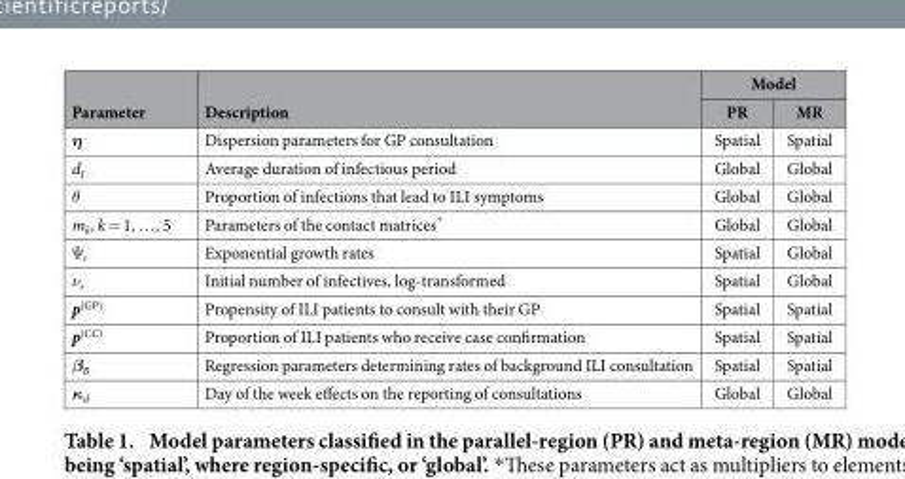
<table><thead><tr><td rowspan="2">Parameter</td><td rowspan="2">Description</td><td colspan="2">Model</td></tr><tr><td>PR</td><td>MR</td></tr></thead><tbody><tr><td>η</td><td>Dispersion parameters for GP consultation</td><td>Spatial</td><td>Spatial</td></tr><tr><td>d<sub>I</sub></td><td>Average duration of infectious period</td><td>Global</td><td>Global</td></tr><tr><td>θ</td><td>Proportion of infections that lead to ILI symptoms</td><td>Global</td><td>Global</td></tr><tr><td>m<sub>k</sub>, k = 1, … , 5</td><td>Parameters of the contact matrices*</td><td>Global</td><td>Global</td></tr><tr><td>Ψ <sub>r</sub></td><td>Exponential growth rates</td><td>Spatial</td><td>Global</td></tr><tr><td>ν<sub>r</sub></td><td>Initial number of infectives, log-transformed</td><td>Spatial</td><td>Global</td></tr><tr><td>p<sup>(GP)</sup></td><td>Propensity of ILI patients to consult with their GP</td><td>Spatial</td><td>Spatial</td></tr><tr><td>p<sup>(CC)</sup></td><td>Proportion of ILI patients who receive case confirmation</td><td>Spatial</td><td>Spatial</td></tr><tr><td>β<sub>B</sub></td><td>Regression parameters determining rates of background ILI consultation</td><td>Spatial</td><td>Spatial</td></tr><tr><td>κ<sub>d</sub></td><td>Day of the week effects on the reporting of consultations</td><td>Global</td><td>Global</td></tr></tbody></table>